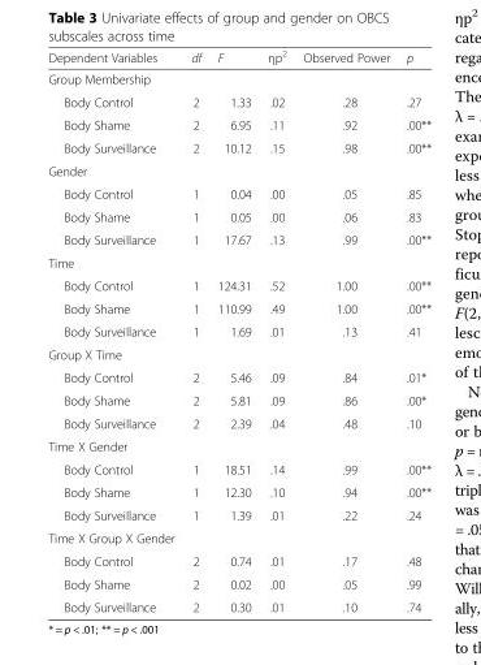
<table><thead><tr><td>Dependent Variables</td><td>df</td><td>F</td><td>ηp<sup>2</sup></td><td>Observed Power</td><td>p</td></tr></thead><tbody><tr><td colspan="6">Group Membership</td></tr><tr><td>Body Control</td><td>2</td><td>1.33</td><td>.02</td><td>.28</td><td>.27</td></tr><tr><td>Body Shame</td><td>2</td><td>6.95</td><td>.11</td><td>.92</td><td>.00**</td></tr><tr><td>Body Surveillance</td><td>2</td><td>10.12</td><td>.15</td><td>.98</td><td>.00**</td></tr><tr><td colspan="6">Gender</td></tr><tr><td>Body Control</td><td>1</td><td>0.04</td><td>.00</td><td>.05</td><td>.85</td></tr><tr><td>Body Shame</td><td>1</td><td>0.05</td><td>.00</td><td>.06</td><td>.83</td></tr><tr><td>Body Surveillance</td><td>1</td><td>17.67</td><td>.13</td><td>.99</td><td>.00**</td></tr><tr><td colspan="6">Time</td></tr><tr><td>Body Control</td><td>1</td><td>124.31</td><td>.52</td><td>1.00</td><td>.00**</td></tr><tr><td>Body Shame</td><td>1</td><td>110.99</td><td>.49</td><td>1.00</td><td>.00**</td></tr><tr><td>Body Surveillance</td><td>1</td><td>1.69</td><td>.01</td><td>.13</td><td>.41</td></tr><tr><td colspan="6">Group X Time</td></tr><tr><td>Body Control</td><td>2</td><td>5.46</td><td>.09</td><td>.84</td><td>.01*</td></tr><tr><td>Body Shame</td><td>2</td><td>5.81</td><td>.09</td><td>.86</td><td>.00*</td></tr><tr><td>Body Surveillance</td><td>2</td><td>2.39</td><td>.04</td><td>.48</td><td>.10</td></tr><tr><td colspan="6">Time X Gender</td></tr><tr><td>Body Control</td><td>1</td><td>18.51</td><td>.14</td><td>.99</td><td>.00**</td></tr><tr><td>Body Shame</td><td>1</td><td>12.30</td><td>.10</td><td>.94</td><td>.00**</td></tr><tr><td>Body Surveillance</td><td>1</td><td>1.39</td><td>.01</td><td>.22</td><td>.24</td></tr><tr><td colspan="6">Time X Group X Gender</td></tr><tr><td>Body Control</td><td>2</td><td>0.74</td><td>.01</td><td>.17</td><td>.48</td></tr><tr><td>Body Shame</td><td>2</td><td>0.02</td><td>.00</td><td>.05</td><td>.99</td></tr><tr><td>Body Surveillance</td><td>2</td><td>0.30</td><td>.01</td><td>.10</td><td>.74</td></tr></tbody></table>